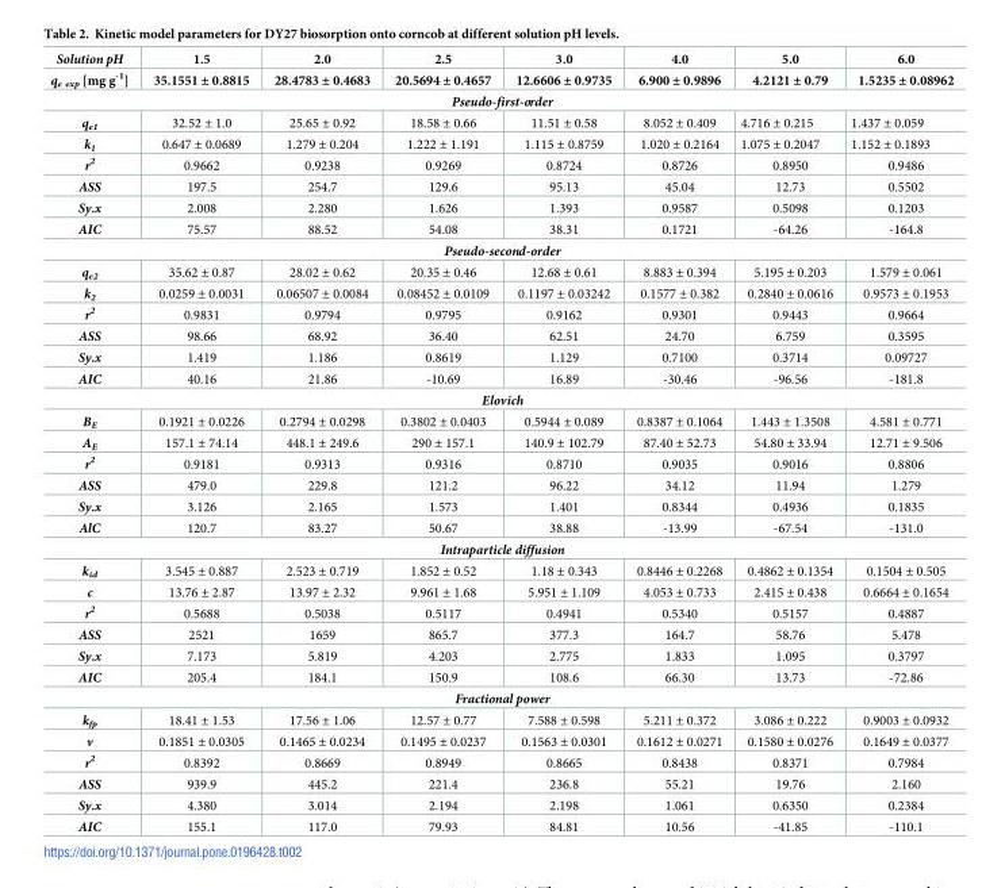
<table><tbody><tr><td>Solution pH</td><td>1.5</td><td>2.0</td><td>2.5</td><td>3.0</td><td>4.0</td><td>5.0</td><td>6.0</td></tr><tr><td>q<sub>e exp</sub> [mg g<sup>-1</sup>]</td><td>35.1551 ± 0.8815</td><td>28.4783 ± 0.4683</td><td>20.5694 ± 0.4657</td><td>12.6606 ± 0.9735</td><td>6.900 ± 0.9896</td><td>4.2121 ± 0.79</td><td>1.5235 ± 0.08962</td></tr><tr><td colspan="8">Pseudo-first-order</td></tr><tr><td>q<sub>e1</sub></td><td>32.52 ± 1.0</td><td>25.65 ± 0.92</td><td>18.58 ± 0.66</td><td>11.51 ± 0.58</td><td>8.052 ± 0.409</td><td>4.716 ± 0.215</td><td>1.437 ± 0.059</td></tr><tr><td>k<sub>1</sub></td><td>0.647 ± 0.0689</td><td>1.279 ± 0.204</td><td>1.222 ± 1.191</td><td>1.115 ± 0.8759</td><td>1.020 ± 0.2164</td><td>1.075 ± 0.2047</td><td>1.152 ± 0.1893</td></tr><tr><td>r<sup>2</sup></td><td>0.9662</td><td>0.9238</td><td>0.9269</td><td>0.8724</td><td>0.8726</td><td>0.8950</td><td>0.9486</td></tr><tr><td>ASS</td><td>197.5</td><td>254.7</td><td>129.6</td><td>95.13</td><td>45.04</td><td>12.73</td><td>0.5502</td></tr><tr><td>Sy.x</td><td>2.008</td><td>2.280</td><td>1.626</td><td>1.393</td><td>0.9587</td><td>0.5098</td><td>0.1203</td></tr><tr><td>AIC</td><td>75.57</td><td>88.52</td><td>54.08</td><td>38.31</td><td>0.1721</td><td>-64.26</td><td>-164.8</td></tr><tr><td colspan="8">Pseudo-second-order</td></tr><tr><td>q<sub>e2</sub></td><td>35.62 ± 0.87</td><td>28.02 ± 0.62</td><td>20.35 ± 0.46</td><td>12.68 ± 0.61</td><td>8.883 ± 0.394</td><td>5.195 ± 0.203</td><td>1.579 ± 0.061</td></tr><tr><td>k<sub>2</sub></td><td>0.0259 ± 0.0031</td><td>0.06507 ± 0.0084</td><td>0.08452 ± 0.0109</td><td>0.1197 ± 0.03242</td><td>0.1577 ± 0.382</td><td>0.2840 ± 0.0616</td><td>0.9573 ± 0.1953</td></tr><tr><td>r<sup>2</sup></td><td>0.9831</td><td>0.9794</td><td>0.9795</td><td>0.9162</td><td>0.9301</td><td>0.9443</td><td>0.9664</td></tr><tr><td>ASS</td><td>98.66</td><td>68.92</td><td>36.40</td><td>62.51</td><td>24.70</td><td>6.759</td><td>0.3595</td></tr><tr><td>Sy.x</td><td>1.419</td><td>1.186</td><td>0.8619</td><td>1.129</td><td>0.7100</td><td>0.3714</td><td>0.09727</td></tr><tr><td>AIC</td><td>40.16</td><td>21.86</td><td>-10.69</td><td>16.89</td><td>-30.46</td><td>-96.56</td><td>-181.8</td></tr><tr><td colspan="8">Elovich</td></tr><tr><td>B<sub>E</sub></td><td>0.1921 ± 0.0226</td><td>0.2794 ± 0.0298</td><td>0.3802 ± 0.0403</td><td>0.5944 ± 0.089</td><td>0.8387 ± 0.1064</td><td>1.443 ± 1.3508</td><td>4.581 ± 0.771</td></tr><tr><td>A<sub>E</sub></td><td>157.1 ± 74.14</td><td>448.1 ± 249.6</td><td>290 ± 157.1</td><td>140.9 ± 102.79</td><td>87.40 ± 52.73</td><td>54.80 ± 33.94</td><td>12.71 ± 9.506</td></tr><tr><td>r<sup>2</sup></td><td>0.9181</td><td>0.9313</td><td>0.9316</td><td>0.8710</td><td>0.9035</td><td>0.9016</td><td>0.8806</td></tr><tr><td>ASS</td><td>479.0</td><td>229.8</td><td>121.2</td><td>96.22</td><td>34.12</td><td>11.94</td><td>1.279</td></tr><tr><td>Sy.x</td><td>3.126</td><td>2.165</td><td>1.573</td><td>1.401</td><td>0.8344</td><td>0.4936</td><td>0.1835</td></tr><tr><td>AlC</td><td>120.7</td><td>83.27</td><td>50.67</td><td>38.88</td><td>-13.99</td><td>-67.54</td><td>-131.0</td></tr><tr><td colspan="8">Intraparticle diffusion</td></tr><tr><td>k<sub>id</sub></td><td>3.545 ± 0.887</td><td>2.523 ± 0.719</td><td>1.852 ± 0.52</td><td>1.18 ± 0.343</td><td>0.8446 ± 0.2268</td><td>0.4862 ± 0.1354</td><td>0.1504 ± 0.505</td></tr><tr><td>c</td><td>13.76 ± 2.87</td><td>13.97 ± 2.32</td><td>9.961 ± 1.68</td><td>5.951 ± 1.109</td><td>4.053 ± 0.733</td><td>2.415 ± 0.438</td><td>0.6664 ± 0.1654</td></tr><tr><td>r<sup>2</sup></td><td>0.5688</td><td>0.5038</td><td>0.5117</td><td>0.4941</td><td>0.5340</td><td>0.5157</td><td>0.4887</td></tr><tr><td>ASS</td><td>2521</td><td>1659</td><td>865.7</td><td>377.3</td><td>164.7</td><td>58.76</td><td>5.478</td></tr><tr><td>Sy.x</td><td>7.173</td><td>5.819</td><td>4.203</td><td>2.775</td><td>1.833</td><td>1.095</td><td>0.3797</td></tr><tr><td>AIC</td><td>205.4</td><td>184.1</td><td>150.9</td><td>108.6</td><td>66.30</td><td>13.73</td><td>-72.86</td></tr><tr><td colspan="8">Fractional power</td></tr><tr><td>k<sub>fp</sub></td><td>18.41 ± 1.53</td><td>17.56 ± 1.06</td><td>12.57 ± 0.77</td><td>7.588 ± 0.598</td><td>5.211 ± 0.372</td><td>3.086 ± 0.222</td><td>0.9003 ± 0.0932</td></tr><tr><td>v</td><td>0.1851 ± 0.0305</td><td>0.1465 ± 0.0234</td><td>0.1495 ± 0.0237</td><td>0.1563 ± 0.0301</td><td>0.1612 ± 0.0271</td><td>0.1580 ± 0.0276</td><td>0.1649 ± 0.0377</td></tr><tr><td>r<sup>2</sup></td><td>0.8392</td><td>0.8669</td><td>0.8949</td><td>0.8665</td><td>0.8438</td><td>0.8371</td><td>0.7984</td></tr><tr><td>ASS</td><td>939.9</td><td>445.2</td><td>221.4</td><td>236.8</td><td>55.21</td><td>19.76</td><td>2.160</td></tr><tr><td>Sy.x</td><td>4.380</td><td>3.014</td><td>2.194</td><td>2.198</td><td>1.061</td><td>0.6350</td><td>0.2384</td></tr><tr><td>AIC</td><td>155.1</td><td>117.0</td><td>79.93</td><td>84.81</td><td>10.56</td><td>-41.85</td><td>-110.1</td></tr></tbody></table>